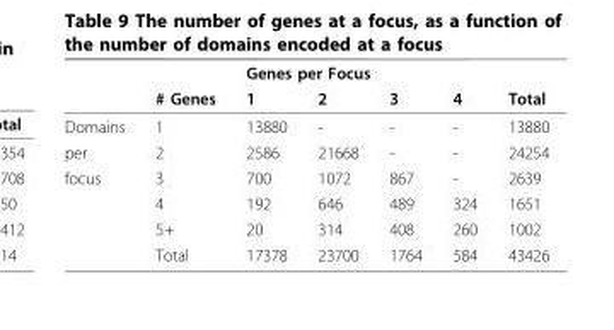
<table><thead><tr><td rowspan="2"></td><td rowspan="2"># Genes</td><td colspan="5">Genes per Focus</td></tr><tr><td>1</td><td>2</td><td>3</td><td>4</td><td>Total</td></tr></thead><tbody><tr><td>Domains</td><td>1</td><td>13880</td><td>-</td><td>-</td><td>-</td><td>13880</td></tr><tr><td>per</td><td>2</td><td>2586</td><td>21668</td><td>-</td><td>-</td><td>24254</td></tr><tr><td rowspan="4">focus</td><td>3</td><td>700</td><td>1072</td><td>867</td><td>-</td><td>2639</td></tr><tr><td>4</td><td>192</td><td>646</td><td>489</td><td>324</td><td>1651</td></tr><tr><td>5+</td><td>20</td><td>314</td><td>408</td><td>260</td><td>1002</td></tr><tr><td>Total</td><td>17378</td><td>23700</td><td>1764</td><td>584</td><td>43426</td></tr></tbody></table>